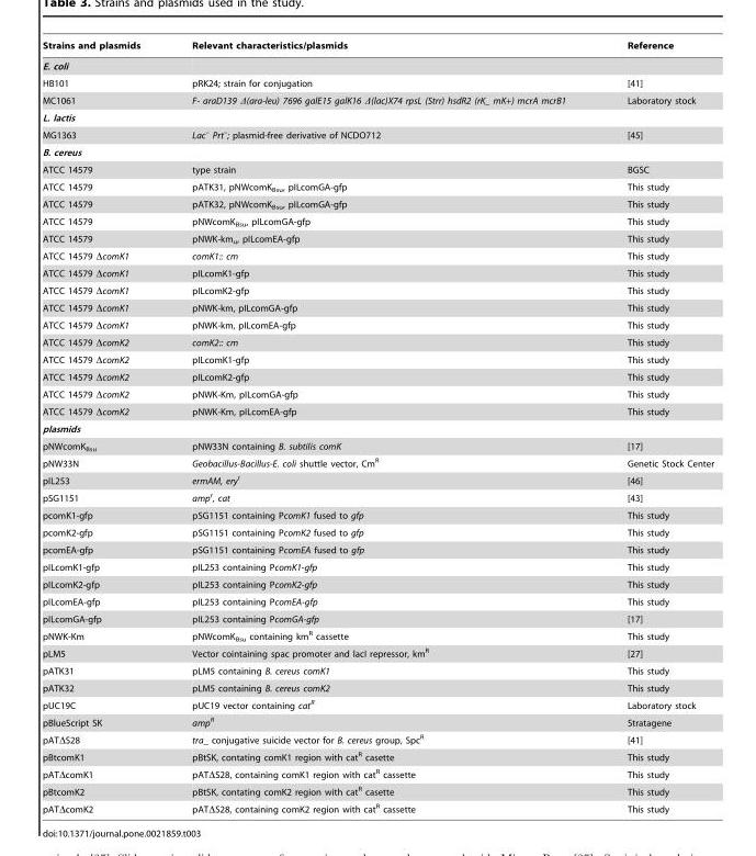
<table><thead><tr><td>Strains and plasmids</td><td>Relevant characteristics/plasmids</td><td>Reference</td></tr></thead><tbody><tr><td colspan="3">E. coli</td></tr><tr><td>HB101</td><td>pRK24; strain for conjugation</td><td>[41]</td></tr><tr><td>MC1061</td><td>F- araD139 Δ(ara-leu) 7696 galE15 galK16 Δ(lac)X74 rpsL (Strr) hsdR2 (rK_ mK+) mcrA mcrB1</td><td>Laboratory stock</td></tr><tr><td colspan="3">L. lactis</td></tr><tr><td>MG1363</td><td>Lac<sup>–</sup> Prt<sup>–</sup>; plasmid-free derivative of NCDO712</td><td>[45]</td></tr><tr><td colspan="3">B. cereus</td></tr><tr><td>ATCC 14579</td><td>type strain</td><td>BGSC</td></tr><tr><td>ATCC 14579</td><td>pATK31, pNWcomK<sub>Bsu</sub>, pILcomGA-gfp</td><td>This study</td></tr><tr><td>ATCC 14579</td><td>pATK32, pNWcomK<sub>Bsu</sub>, pILcomGA-gfp</td><td>This study</td></tr><tr><td>ATCC 14579</td><td>pNWcomK<sub>Bsu</sub>, pILcomGA-gfp</td><td>This study</td></tr><tr><td>ATCC 14579</td><td>pNWK-km<sub>u</sub>, pILcomEA-gfp</td><td>This study</td></tr><tr><td>ATCC 14579 ΔcomK1</td><td>comK1:: cm</td><td>This study</td></tr><tr><td>ATCC 14579 ΔcomK1</td><td>pILcomK1-gfp</td><td>This study</td></tr><tr><td>ATCC 14579 ΔcomK1</td><td>pILcomK2-gfp</td><td>This study</td></tr><tr><td>ATCC 14579 ΔcomK1</td><td>pNWK-km, pILcomGA-gfp</td><td>This study</td></tr><tr><td>ATCC 14579 ΔcomK1</td><td>pNWK-km, pILcomEA-gfp</td><td>This study</td></tr><tr><td>ATCC 14579 ΔcomK2</td><td>comK2:: cm</td><td>This study</td></tr><tr><td>ATCC 14579 ΔcomK2</td><td>pILcomK1-gfp</td><td>This study</td></tr><tr><td>ATCC 14579 ΔcomK2</td><td>pILcomK2-gfp</td><td>This study</td></tr><tr><td>ATCC 14579 ΔcomK2</td><td>pNWK-Km, pILcomGA-gfp</td><td>This study</td></tr><tr><td>ATCC 14579 ΔcomK2</td><td>pNWK-Km, pILcomEA-gfp</td><td>This study</td></tr><tr><td colspan="3">plasmids</td></tr><tr><td>pNWcomK<sub>Bsu</sub></td><td>pNW33N containing B. subtilis comK</td><td>[17]</td></tr><tr><td>pNW33N</td><td>Geobacillus-Bacillus-E. coli shuttle vector, Cm<sup>R</sup></td><td>Genetic Stock Center</td></tr><tr><td>pIL253</td><td>ermAM, ery<sup>r</sup></td><td>[46]</td></tr><tr><td>pSG1151</td><td>amp<sup>r</sup>, cat</td><td>[43]</td></tr><tr><td>pcomK1-gfp</td><td>pSG1151 containing PcomK1 fused to gfp</td><td>This study</td></tr><tr><td>pcomK2-gfp</td><td>pSG1151 containing PcomK2 fused to gfp</td><td>This study</td></tr><tr><td>pcomEA-gfp</td><td>pSG1151 containing PcomEA fused to gfp</td><td>This study</td></tr><tr><td>pILcomK1-gfp</td><td>pIL253 containing PcomK1-gfp</td><td>This study</td></tr><tr><td>pILcomK2-gfp</td><td>pIL253 containing PcomK2-gfp</td><td>This study</td></tr><tr><td>pILcomEA-gfp</td><td>pIL253 containing PcomEA-gfp</td><td>This study</td></tr><tr><td>pILcomGA-gfp</td><td>pIL253 containing PcomGA-gfp</td><td>[17]</td></tr><tr><td>pNWK-Km</td><td>pNWcomK<sub>Bsu</sub> containing km<sup>R</sup> cassette</td><td>This study</td></tr><tr><td>pLM5</td><td>Vector cointaining spac promoter and lacI repressor, km<sup>R</sup></td><td>[27]</td></tr><tr><td>pATK31</td><td>pLM5 containing B. cereus comK1</td><td>This study</td></tr><tr><td>pATK32</td><td>pLM5 containing B. cereus comK2</td><td>This study</td></tr><tr><td>pUC19C</td><td>pUC19 vector containing cat<sup>R</sup></td><td>Laboratory stock</td></tr><tr><td>pBlueScript SK</td><td>amp<sup>R</sup></td><td>Stratagene</td></tr><tr><td>pATΔS28</td><td>tra_ conjugative suicide vector for B. cereus group, Spc<sup>R</sup></td><td>[41]</td></tr><tr><td>pBtcomK1</td><td>pBtSK, contating comK1 region with cat<sup>R</sup> casette</td><td>This study</td></tr><tr><td>pATΔcomK1</td><td>pATΔS28, containing comK1 region with cat<sup>R</sup> cassette</td><td>This study</td></tr><tr><td>pBtcomK2</td><td>pBtSK, contating comK2 region with cat<sup>R</sup> casette</td><td>This study</td></tr><tr><td>pATΔcomK2</td><td>pATΔS28, containing comK2 region with cat<sup>R</sup> cassette</td><td>This study</td></tr></tbody></table>